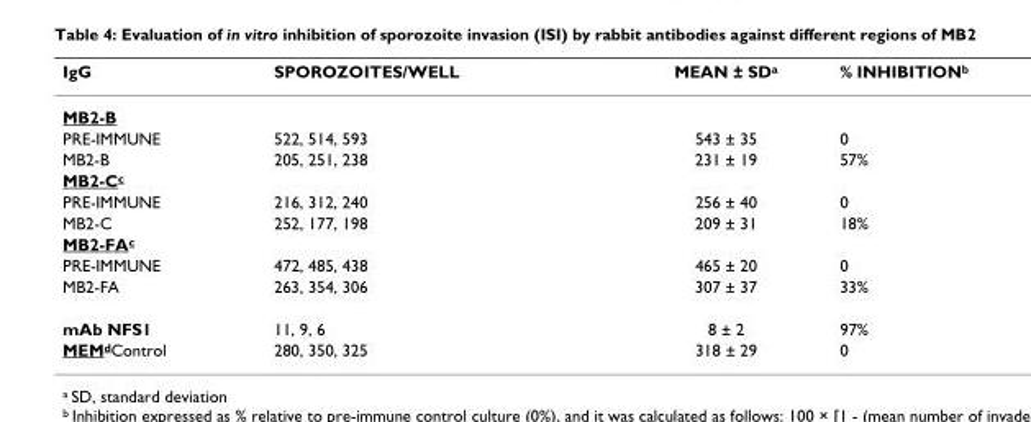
<table><thead><tr><td>IgG</td><td>SPOROZOITES/WELL</td><td>MEAN ± SD<sup>a</sup></td><td>% INHIBITION<sup>b</sup></td></tr></thead><tbody><tr><td colspan="4">MB2-B</td></tr><tr><td>PRE-IMMUNE</td><td>522, 514, 593</td><td>543 ± 35</td><td>0</td></tr><tr><td>MB2-B</td><td>205, 251, 238</td><td>231 ± 19</td><td>57%</td></tr><tr><td colspan="4">MB2-Cc</td></tr><tr><td>PRE-IMMUNE</td><td>216, 312, 240</td><td>256 ± 40</td><td>0</td></tr><tr><td>MB2-C</td><td>252, 177, 198</td><td>209 ± 31</td><td>18%</td></tr><tr><td colspan="4">MB2-FAc</td></tr><tr><td>PRE-IMMUNE</td><td>472, 485, 438</td><td>465 ± 20</td><td>0</td></tr><tr><td>MB2-FA</td><td>263, 354, 306</td><td>307 ± 37</td><td>33%</td></tr><tr><td>mAb NFS1</td><td>11, 9, 6</td><td>8 ± 2</td><td>97%</td></tr><tr><td>MEMdControl</td><td>280, 350, 325</td><td>318 ± 29</td><td>0</td></tr></tbody></table>